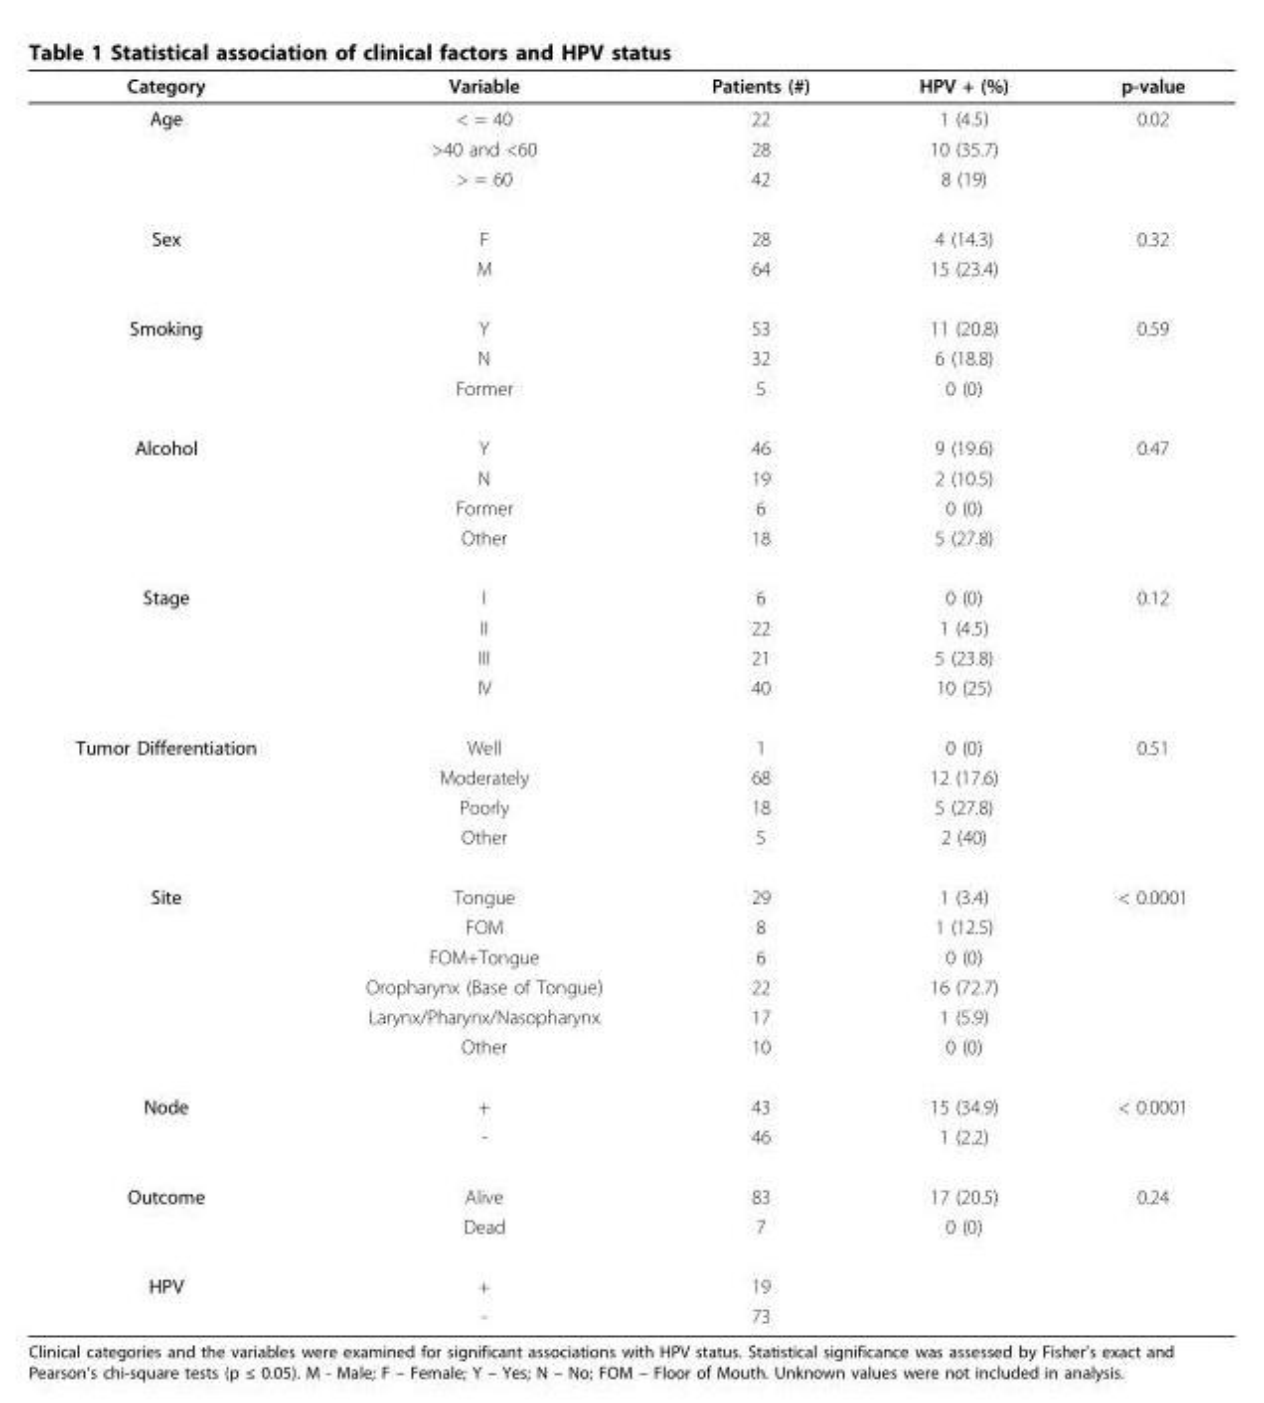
<table><thead><tr><td>Category</td><td>Variable</td><td>Patients (#)</td><td>HPV + (%)</td><td>p-value</td></tr></thead><tbody><tr><td rowspan="3">Age</td><td>&lt; = 40</td><td>22</td><td>1 (4.5)</td><td>0.02</td></tr><tr><td>&gt;40 and &lt;60</td><td>28</td><td>10 (35.7)</td><td></td></tr><tr><td>&gt; = 60</td><td>42</td><td>8 (19)</td><td></td></tr><tr><td rowspan="2">Sex</td><td>F</td><td>28</td><td>4 (14.3)</td><td>0.32</td></tr><tr><td>M</td><td>64</td><td>15 (23.4)</td><td></td></tr><tr><td rowspan="3">Smoking</td><td>Y</td><td>53</td><td>11 (20.8)</td><td>0.59</td></tr><tr><td>N</td><td>32</td><td>6 (18.8)</td><td></td></tr><tr><td>Former</td><td>5</td><td>0 (0)</td><td></td></tr><tr><td rowspan="4">Alcohol</td><td>Y</td><td>46</td><td>9 (19.6)</td><td>0.47</td></tr><tr><td>N</td><td>19</td><td>2 (10.5)</td><td></td></tr><tr><td>Former</td><td>6</td><td>0 (0)</td><td></td></tr><tr><td>Other</td><td>18</td><td>5 (27.8)</td><td></td></tr><tr><td rowspan="4">Stage</td><td>I</td><td>6</td><td>0 (0)</td><td>0.12</td></tr><tr><td>II</td><td>22</td><td>1 (4.5)</td><td></td></tr><tr><td>III</td><td>21</td><td>5 (23.8)</td><td></td></tr><tr><td>IV</td><td>40</td><td>10 (25)</td><td></td></tr><tr><td rowspan="4">Tumor Differentiation</td><td>Well</td><td>1</td><td>0 (0)</td><td>0.51</td></tr><tr><td>Moderately</td><td>68</td><td>12 (17.6)</td><td></td></tr><tr><td>Poorly</td><td>18</td><td>5 (27.8)</td><td></td></tr><tr><td>Other</td><td>5</td><td>2 (40)</td><td></td></tr><tr><td rowspan="6">Site</td><td>Tongue</td><td>29</td><td>1 (3.4)</td><td>&lt; 0.0001</td></tr><tr><td>FOM</td><td>8</td><td>1 (12.5)</td><td></td></tr><tr><td>FOM+Tongue</td><td>6</td><td>0 (0)</td><td></td></tr><tr><td>Oropharynx (Base of Tongue)</td><td>22</td><td>16 (72.7)</td><td></td></tr><tr><td>Larynx/Pharynx/Nasopharynx</td><td>17</td><td>1 (5.9)</td><td></td></tr><tr><td>Other</td><td>10</td><td>0 (0)</td><td></td></tr><tr><td rowspan="2">Node</td><td>+</td><td>43</td><td>15 (34.9)</td><td>&lt; 0.0001</td></tr><tr><td>-</td><td>46</td><td>1 (2.2)</td><td></td></tr><tr><td rowspan="2">Outcome</td><td>Alive</td><td>83</td><td>17 (20.5)</td><td>0.24</td></tr><tr><td>Dead</td><td>7</td><td>0 (0)</td><td></td></tr><tr><td rowspan="2">HPV</td><td>+</td><td>19</td><td></td><td></td></tr><tr><td>-</td><td>73</td><td></td><td></td></tr></tbody></table>